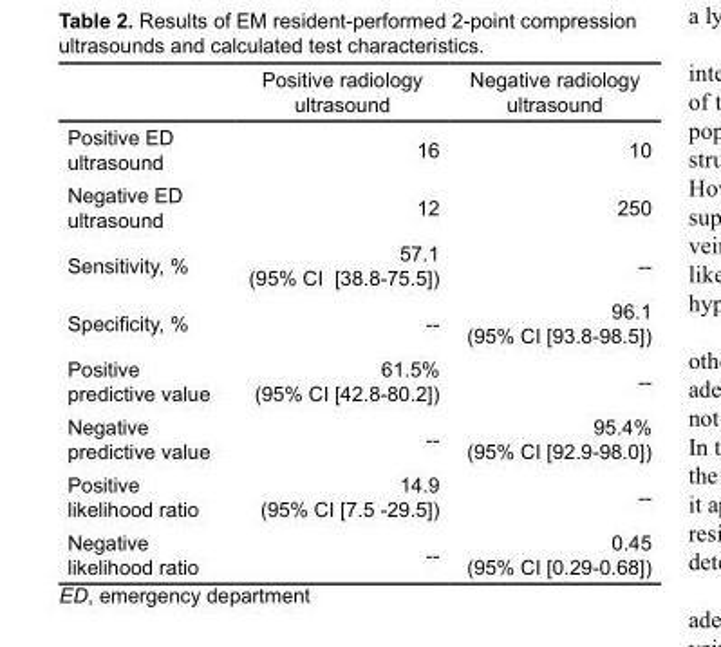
<table><thead><tr><td></td><td>Positive radiology ultrasound</td><td>Negative radiology ultrasound</td></tr></thead><tbody><tr><td>Positive ED ultrasound</td><td>16</td><td>10</td></tr><tr><td>Negative ED ultrasound</td><td>12</td><td>250</td></tr><tr><td>Sensitivity, %</td><td>57.1 (95% CI [38.8-75.5])</td><td>--</td></tr><tr><td>Specificity, %</td><td>--</td><td>96.1 (95% CI [93.8-98.5])</td></tr><tr><td>Positive predictive value</td><td>61.5% (95% CI [42.8-80.2])</td><td>--</td></tr><tr><td>Negative predictive value</td><td>--</td><td>95.4% (95% CI [92.9-98.0])</td></tr><tr><td>Positive likelihood ratio</td><td>14.9 (95% CI [7.5 -29.5])</td><td>--</td></tr><tr><td>Negative likelihood ratio</td><td>--</td><td>0.45 (95% CI [0.29-0.68])</td></tr></tbody></table>